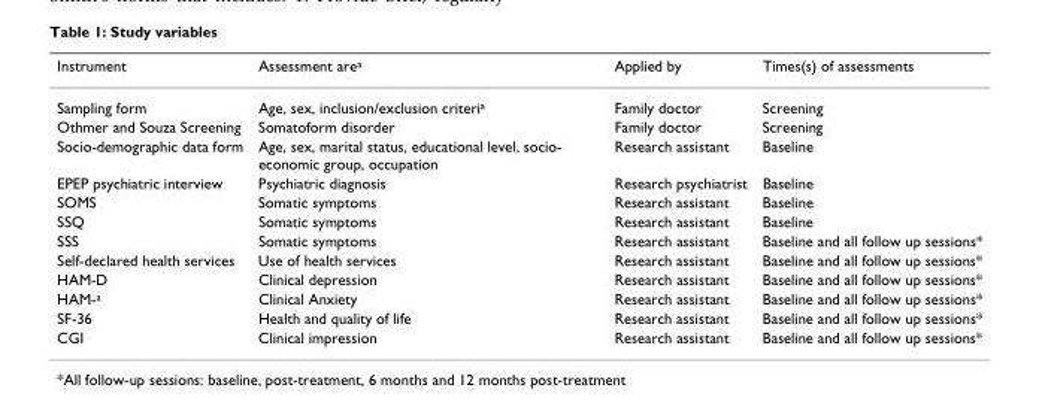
<table><thead><tr><td>Instrument</td><td>Assessment are<sup>a</sup></td><td>Applied by</td><td>Times(s) of assessments</td></tr></thead><tbody><tr><td>Sampling form</td><td>Age, sex, inclusion/exclusion criteri<sup>a</sup></td><td>Family doctor</td><td>Screening</td></tr><tr><td>Othmer and Souza Screening</td><td>Somatoform disorder</td><td>Family doctor</td><td>Screening</td></tr><tr><td>Socio-demographic data form</td><td>Age, sex, marital status, educational level, socio- economic group, occupation</td><td>Research assistant</td><td>Baseline</td></tr><tr><td>EPEP psychiatric interview</td><td>Psychiatric diagnosis</td><td>Research psychiatrist</td><td>Baseline</td></tr><tr><td>SOMS</td><td>Somatic symptoms</td><td>Research assistant</td><td>Baseline</td></tr><tr><td>SSQ</td><td>Somatic symptoms</td><td>Research assistant</td><td>Baseline</td></tr><tr><td>SSS</td><td>Somatic symptoms</td><td>Research assistant</td><td>Baseline and all follow up sessions*</td></tr><tr><td>Self-declared health services</td><td>Use of health services</td><td>Research assistant</td><td>Baseline and all follow up sessions*</td></tr><tr><td>HAM-D</td><td>Clinical depression</td><td>Research assistant</td><td>Baseline and all follow up sessions*</td></tr><tr><td>HAM-<sup>a</sup></td><td>Clinical Anxiety</td><td>Research assistant</td><td>Baseline and all follow up sessions*</td></tr><tr><td>SF-36</td><td>Health and quality of life</td><td>Research assistant</td><td>Baseline and all follow up sessions*</td></tr><tr><td>CGI</td><td>Clinical impression</td><td>Research assistant</td><td>Baseline and all follow up sessions*</td></tr></tbody></table>